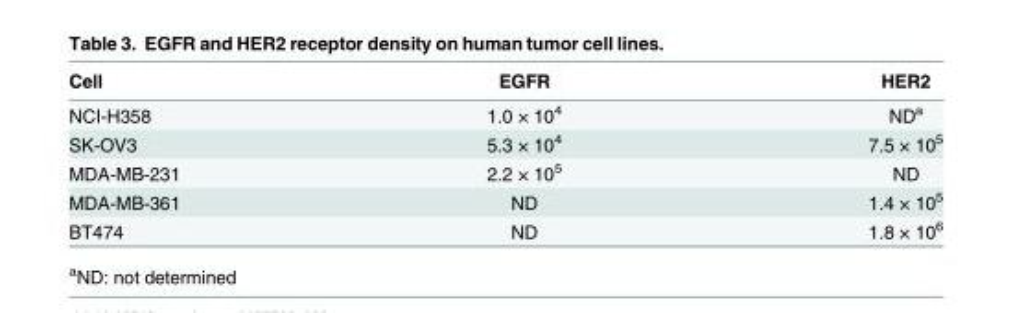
<table><thead><tr><td>Cell</td><td>EGFR</td><td>HER2</td></tr></thead><tbody><tr><td>NCI-H358</td><td>1.0 × 10<sup>4</sup></td><td>ND<sup>a</sup></td></tr><tr><td>SK-OV3</td><td>5.3 × 10<sup>4</sup></td><td>7.5 × 10<sup>5</sup></td></tr><tr><td>MDA-MB-231</td><td>2.2 × 10<sup>5</sup></td><td>ND</td></tr><tr><td>MDA-MB-361</td><td>ND</td><td>1.4 × 10<sup>5</sup></td></tr><tr><td>BT474</td><td>ND</td><td>1.8 × 10<sup>6</sup></td></tr></tbody></table>